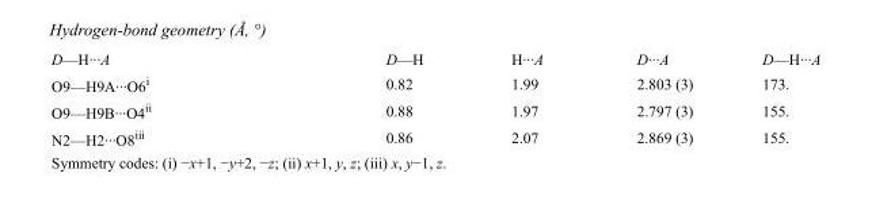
<table><tbody><tr><td>D—H···A</td><td>D—H</td><td>H···A</td><td>D···A</td><td>D—H···A</td></tr><tr><td>O9—H9A···O6<sup>i</sup></td><td>0.82</td><td>1.99</td><td>2.803 (3)</td><td>173.</td></tr><tr><td>O9—H9B···O4<sup>ii</sup></td><td>0.88</td><td>1.97</td><td>2.797 (3)</td><td>155.</td></tr><tr><td>N2—H2···O8<sup>iii</sup></td><td>0.86</td><td>2.07</td><td>2.869 (3)</td><td>155.</td></tr></tbody></table>